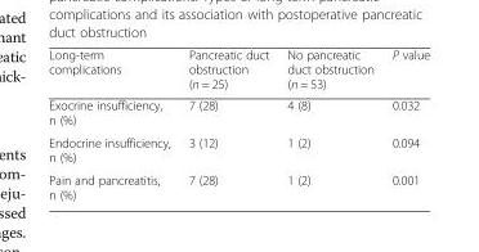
<table><thead><tr><td>Long-term complications</td><td>Pancreatic duct obstruction (n = 25)</td><td>No pancreatic duct obstruction (n = 53)</td><td>P value</td></tr></thead><tbody><tr><td>Exocrine insufficiency, n (%)</td><td>7 (28)</td><td>4 (8)</td><td>0.032</td></tr><tr><td>Endocrine insufficiency, n (%)</td><td>3 (12)</td><td>1 (2)</td><td>0.094</td></tr><tr><td>Pain and pancreatitis, n (%)</td><td>7 (28)</td><td>1 (2)</td><td>0.001</td></tr></tbody></table>